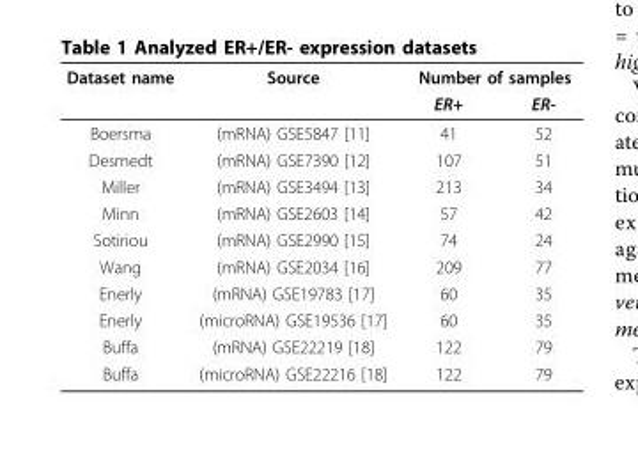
<table><thead><tr><td rowspan="2">Dataset name</td><td rowspan="2">Source</td><td colspan="2">Number of samples</td></tr><tr><td>ER+</td><td>ER-</td></tr></thead><tbody><tr><td>Boersma</td><td>(mRNA) GSE5847 [11]</td><td>41</td><td>52</td></tr><tr><td>Desmedt</td><td>(mRNA) GSE7390 [12]</td><td>107</td><td>51</td></tr><tr><td>Miller</td><td>(mRNA) GSE3494 [13]</td><td>213</td><td>34</td></tr><tr><td>Minn</td><td>(mRNA) GSE2603 [14]</td><td>57</td><td>42</td></tr><tr><td>Sotiriou</td><td>(mRNA) GSE2990 [15]</td><td>74</td><td>24</td></tr><tr><td>Wang</td><td>(mRNA) GSE2034 [16]</td><td>209</td><td>77</td></tr><tr><td>Enerly</td><td>(mRNA) GSE19783 [17]</td><td>60</td><td>35</td></tr><tr><td>Enerly</td><td>(microRNA) GSE19536 [17]</td><td>60</td><td>35</td></tr><tr><td>Buffa</td><td>(mRNA) GSE22219 [18]</td><td>122</td><td>79</td></tr><tr><td>Buffa</td><td>(microRNA) GSE22216 [18]</td><td>122</td><td>79</td></tr></tbody></table>